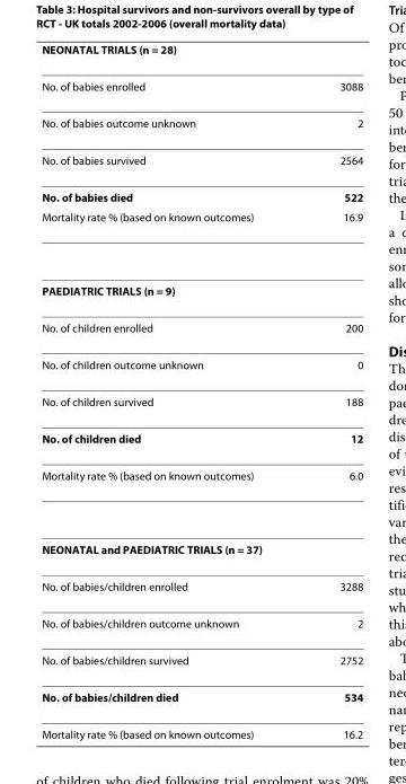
<table><thead><tr><td>NEONATAL TRIALS (n = 28)</td><td></td></tr></thead><tbody><tr><td>No. of babies enrolled</td><td>3088</td></tr><tr><td>No. of babies outcome unknown</td><td>2</td></tr><tr><td>No. of babies survived</td><td>2564</td></tr><tr><td>No. of babies died</td><td>522</td></tr><tr><td>Mortality rate % (based on known outcomes)</td><td>16.9</td></tr><tr><td colspan="2">PAEDIATRIC TRIALS (n = 9)</td></tr><tr><td>No. of children enrolled</td><td>200</td></tr><tr><td>No. of children outcome unknown</td><td>0</td></tr><tr><td>No. of children survived</td><td>188</td></tr><tr><td>No. of children died</td><td>12</td></tr><tr><td>Mortality rate % (based on known outcomes)</td><td>6.0</td></tr><tr><td colspan="2">NEONATAL and PAEDIATRIC TRIALS (n = 37)</td></tr><tr><td>No. of babies/children enrolled</td><td>3288</td></tr><tr><td>No. of babies/children outcome unknown</td><td>2</td></tr><tr><td>No. of babies/children survived</td><td>2752</td></tr><tr><td>No. of babies/children died</td><td>534</td></tr><tr><td>Mortality rate % (based on known outcomes)</td><td>16.2</td></tr></tbody></table>